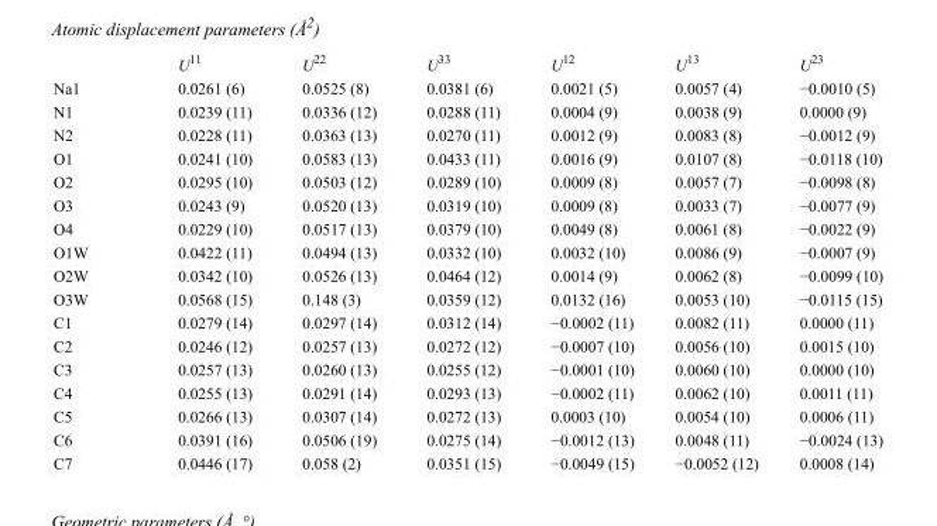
<table><thead><tr><td></td><td>U<sup>11</sup></td><td>U<sup>22</sup></td><td>U<sup>33</sup></td><td>U<sup>12</sup></td><td>U<sup>13</sup></td><td>U<sup>23</sup></td></tr></thead><tbody><tr><td>Na1</td><td>0.0261 (6)</td><td>0.0525 (8)</td><td>0.0381 (6)</td><td>0.0021 (5)</td><td>0.0057 (4)</td><td>−0.0010 (5)</td></tr><tr><td>N1</td><td>0.0239 (11)</td><td>0.0336 (12)</td><td>0.0288 (11)</td><td>0.0004 (9)</td><td>0.0038 (9)</td><td>0.0000 (9)</td></tr><tr><td>N2</td><td>0.0228 (11)</td><td>0.0363 (13)</td><td>0.0270 (11)</td><td>0.0012 (9)</td><td>0.0083 (8)</td><td>−0.0012 (9)</td></tr><tr><td>O1</td><td>0.0241 (10)</td><td>0.0583 (13)</td><td>0.0433 (11)</td><td>0.0016 (9)</td><td>0.0107 (8)</td><td>−0.0118 (10)</td></tr><tr><td>O2</td><td>0.0295 (10)</td><td>0.0503 (12)</td><td>0.0289 (10)</td><td>0.0009 (8)</td><td>0.0057 (7)</td><td>−0.0098 (8)</td></tr><tr><td>O3</td><td>0.0243 (9)</td><td>0.0520 (13)</td><td>0.0319 (10)</td><td>0.0009 (8)</td><td>0.0033 (7)</td><td>−0.0077 (9)</td></tr><tr><td>O4</td><td>0.0229 (10)</td><td>0.0517 (13)</td><td>0.0379 (10)</td><td>0.0049 (8)</td><td>0.0061 (8)</td><td>−0.0022 (9)</td></tr><tr><td>O1W</td><td>0.0422 (11)</td><td>0.0494 (13)</td><td>0.0332 (10)</td><td>0.0032 (10)</td><td>0.0086 (9)</td><td>−0.0007 (9)</td></tr><tr><td>O2W</td><td>0.0342 (10)</td><td>0.0526 (13)</td><td>0.0464 (12)</td><td>0.0014 (9)</td><td>0.0062 (8)</td><td>−0.0099 (10)</td></tr><tr><td>O3W</td><td>0.0568 (15)</td><td>0.148 (3)</td><td>0.0359 (12)</td><td>0.0132 (16)</td><td>0.0053 (10)</td><td>−0.0115 (15)</td></tr><tr><td>C1</td><td>0.0279 (14)</td><td>0.0297 (14)</td><td>0.0312 (14)</td><td>−0.0002 (11)</td><td>0.0082 (11)</td><td>0.0000 (11)</td></tr><tr><td>C2</td><td>0.0246 (12)</td><td>0.0257 (13)</td><td>0.0272 (12)</td><td>−0.0007 (10)</td><td>0.0056 (10)</td><td>0.0015 (10)</td></tr><tr><td>C3</td><td>0.0257 (13)</td><td>0.0260 (13)</td><td>0.0255 (12)</td><td>−0.0001 (10)</td><td>0.0060 (10)</td><td>0.0000 (10)</td></tr><tr><td>C4</td><td>0.0255 (13)</td><td>0.0291 (14)</td><td>0.0293 (13)</td><td>−0.0002 (11)</td><td>0.0062 (10)</td><td>0.0011 (11)</td></tr><tr><td>C5</td><td>0.0266 (13)</td><td>0.0307 (14)</td><td>0.0272 (13)</td><td>0.0003 (10)</td><td>0.0054 (10)</td><td>0.0006 (11)</td></tr><tr><td>C6</td><td>0.0391 (16)</td><td>0.0506 (19)</td><td>0.0275 (14)</td><td>−0.0012 (13)</td><td>0.0048 (11)</td><td>−0.0024 (13)</td></tr><tr><td>C7</td><td>0.0446 (17)</td><td>0.058 (2)</td><td>0.0351 (15)</td><td>−0.0049 (15)</td><td>−0.0052 (12)</td><td>0.0008 (14)</td></tr></tbody></table>